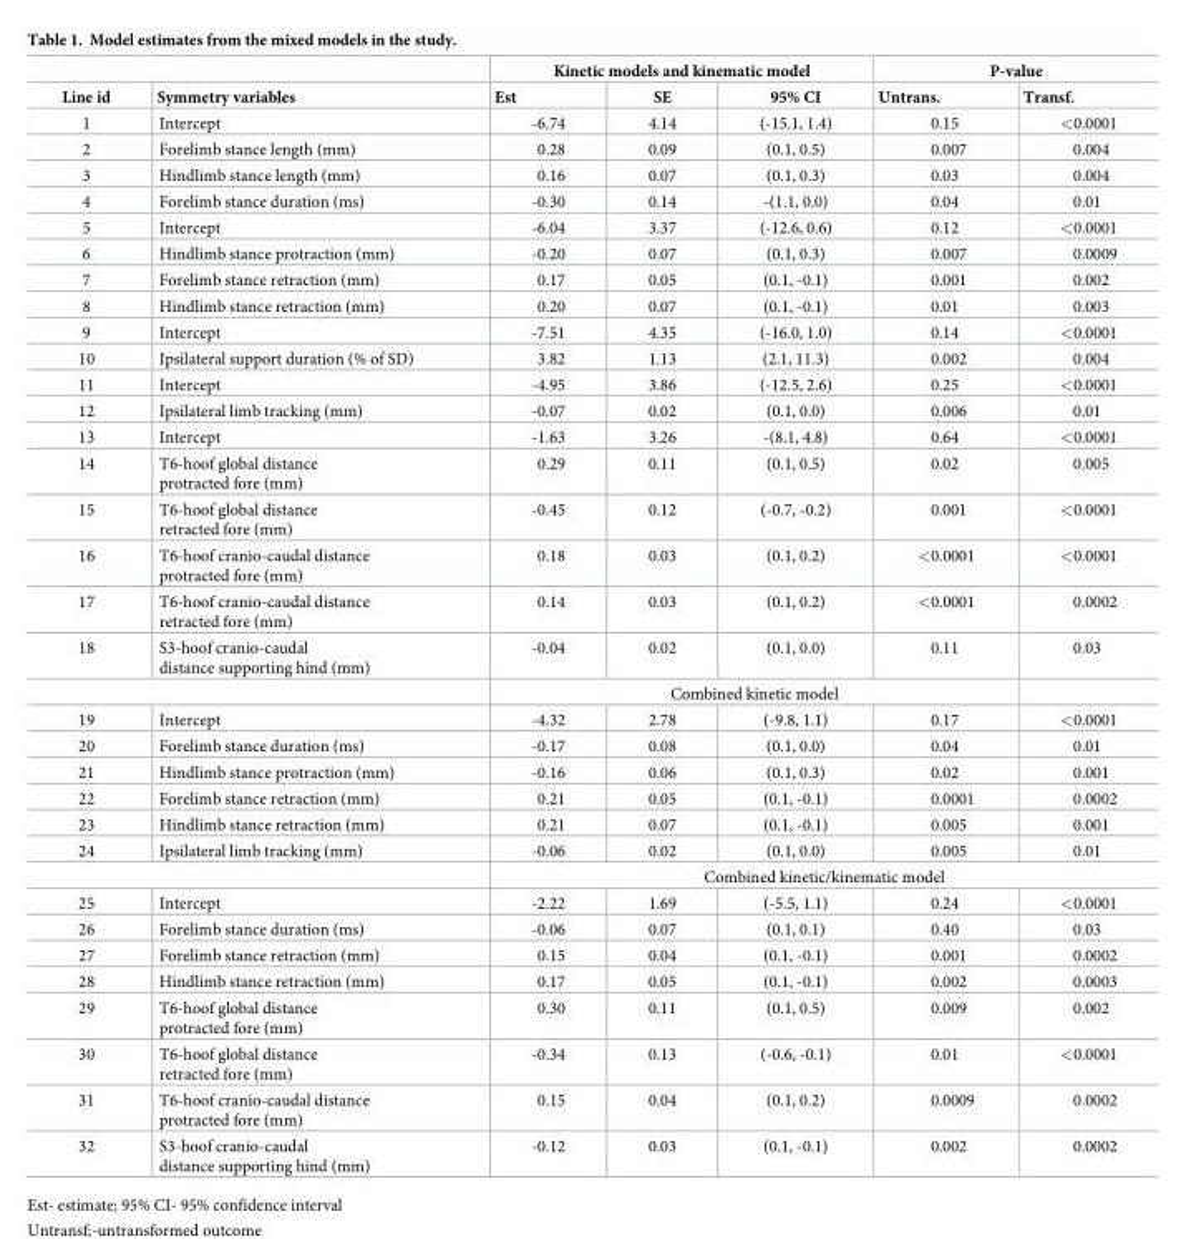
<table><thead><tr><td rowspan="2">Line id</td><td rowspan="2">Symmetry variables</td><td colspan="3">Kinetic models and kinematic model</td><td colspan="2">P-value</td></tr><tr><td>Est</td><td>SE</td><td>95% CI</td><td>Untrans.</td><td>Transf.</td></tr></thead><tbody><tr><td>1</td><td>Intercept</td><td>-6.74</td><td>4.14</td><td>(-15.1, 1.4)</td><td>0.15</td><td>&lt;0.0001</td></tr><tr><td>2</td><td>Forelimb stance length (mm)</td><td>0.28</td><td>0.09</td><td>(0.1, 0.5)</td><td>0.007</td><td>0.004</td></tr><tr><td>3</td><td>Hindlimb stance length (mm)</td><td>0.16</td><td>0.07</td><td>(0.1, 0.3)</td><td>0.03</td><td>0.004</td></tr><tr><td>4</td><td>Forelimb stance duration (ms)</td><td>-0.30</td><td>0.14</td><td>-(1.1, 0.0)</td><td>0.04</td><td>0.01</td></tr><tr><td>5</td><td>Intercept</td><td>-6.04</td><td>3.37</td><td>(-12.6, 0.6)</td><td>0.12</td><td>&lt;0.0001</td></tr><tr><td>6</td><td>Hindlimb stance protraction (mm)</td><td>-0.20</td><td>0.07</td><td>(0.1, 0.3)</td><td>0.007</td><td>0.0009</td></tr><tr><td>7</td><td>Forelimb stance retraction (mm)</td><td>0.17</td><td>0.05</td><td>(0.1, -0.1)</td><td>0.001</td><td>0.002</td></tr><tr><td>8</td><td>Hindlimb stance retraction (mm)</td><td>0.20</td><td>0.07</td><td>(0.1, -0.1)</td><td>0.01</td><td>0.003</td></tr><tr><td>9</td><td>Intercept</td><td>-7.51</td><td>4.35</td><td>(-16.0, 1.0)</td><td>0.14</td><td>&lt;0.0001</td></tr><tr><td>10</td><td>Ipsilateral support duration (% of SD)</td><td>3.82</td><td>1.13</td><td>(2.1, 11.3)</td><td>0.002</td><td>0.004</td></tr><tr><td>11</td><td>Intercept</td><td>-4.95</td><td>3.86</td><td>(-12.5, 2.6)</td><td>0.25</td><td>&lt;0.0001</td></tr><tr><td>12</td><td>Ipsilateral limb tracking (mm)</td><td>-0.07</td><td>0.02</td><td>(0.1, 0.0)</td><td>0.006</td><td>0.01</td></tr><tr><td>13</td><td>Intercept</td><td>-1.63</td><td>3.26</td><td>-(8.1, 4.8)</td><td>0.64</td><td>&lt;0.0001</td></tr><tr><td>14</td><td>T6-hoof global distance protracted fore (mm)</td><td>0.29</td><td>0.11</td><td>(0.1, 0.5)</td><td>0.02</td><td>0.005</td></tr><tr><td>15</td><td>T6-hoof global distance retracted fore (mm)</td><td>-0.45</td><td>0.12</td><td>(-0.7, -0.2)</td><td>0.001</td><td>&lt;0.0001</td></tr><tr><td>16</td><td>T6-hoof cranio-caudal distance protracted fore (mm)</td><td>0.18</td><td>0.03</td><td>(0.1, 0.2)</td><td>&lt;0.0001</td><td>&lt;0.0001</td></tr><tr><td>17</td><td>T6-hoof cranio-caudal distance retracted fore (mm)</td><td>0.14</td><td>0.03</td><td>(0.1, 0.2)</td><td>&lt;0.0001</td><td>0.0002</td></tr><tr><td>18</td><td>S3-hoof cranio-caudal distance supporting hind (mm)</td><td>-0.04</td><td>0.02</td><td>(0.1, 0.0)</td><td>0.11</td><td>0.03</td></tr><tr><td colspan="2"></td><td colspan="4">Combined kinetic model</td><td></td></tr><tr><td>19</td><td>Intercept</td><td>-4.32</td><td>2.78</td><td>(-9.8, 1.1)</td><td>0.17</td><td>&lt;0.0001</td></tr><tr><td>20</td><td>Forelimb stance duration (ms)</td><td>-0.17</td><td>0.08</td><td>(0.1, 0.0)</td><td>0.04</td><td>0.01</td></tr><tr><td>21</td><td>Hindlimb stance protraction (mm)</td><td>-0.16</td><td>0.06</td><td>(0.1, 0.3)</td><td>0.02</td><td>0.001</td></tr><tr><td>22</td><td>Forelimb stance retraction (mm)</td><td>0.21</td><td>0.05</td><td>(0.1, -0.1)</td><td>0.0001</td><td>0.0002</td></tr><tr><td>23</td><td>Hindlimb stance retraction (mm)</td><td>0.21</td><td>0.07</td><td>(0.1, -0.1)</td><td>0.005</td><td>0.001</td></tr><tr><td>24</td><td>Ipsilateral limb tracking (mm)</td><td>-0.06</td><td>0.02</td><td>(0.1, 0.0)</td><td>0.005</td><td>0.01</td></tr><tr><td colspan="2"></td><td colspan="5">Combined kinetic/kinematic model</td></tr><tr><td>25</td><td>Intercept</td><td>-2.22</td><td>1.69</td><td>(-5.5, 1.1)</td><td>0.24</td><td>&lt;0.0001</td></tr><tr><td>26</td><td>Forelimb stance duration (ms)</td><td>-0.06</td><td>0.07</td><td>(0.1, 0.1)</td><td>0.40</td><td>0.03</td></tr><tr><td>27</td><td>Forelimb stance retraction (mm)</td><td>0.15</td><td>0.04</td><td>(0.1, -0.1)</td><td>0.001</td><td>0.0002</td></tr><tr><td>28</td><td>Hindlimb stance retraction (mm)</td><td>0.17</td><td>0.05</td><td>(0.1, -0.1)</td><td>0.002</td><td>0.0003</td></tr><tr><td>29</td><td>T6-hoof global distance protracted fore (mm)</td><td>0.30</td><td>0.11</td><td>(0.1, 0.5)</td><td>0.009</td><td>0.002</td></tr><tr><td>30</td><td>T6-hoof global distance retracted fore (mm)</td><td>-0.34</td><td>0.13</td><td>(-0.6, -0.1)</td><td>0.01</td><td>&lt;0.0001</td></tr><tr><td>31</td><td>T6-hoof cranio-caudal distance protracted fore (mm)</td><td>0.15</td><td>0.04</td><td>(0.1, 0.2)</td><td>0.0009</td><td>0.0002</td></tr><tr><td>32</td><td>S3-hoof cranio-caudal distance supporting hind (mm)</td><td>-0.12</td><td>0.03</td><td>(0.1, -0.1)</td><td>0.002</td><td>0.0002</td></tr></tbody></table>